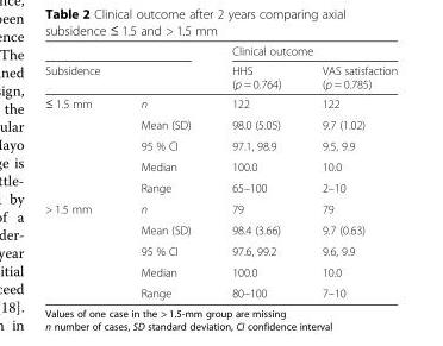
<table><thead><tr><td rowspan="2">Subsidence</td><td rowspan="2"></td><td colspan="2">Clinical outcome</td></tr><tr><td>HHS (p = 0.764)</td><td>VAS satisfaction (p = 0.785)</td></tr></thead><tbody><tr><td rowspan="5">≤ 1.5 mm</td><td>n</td><td>122</td><td>122</td></tr><tr><td>Mean (SD)</td><td>98.0 (5.05)</td><td>9.7 (1.02)</td></tr><tr><td>95 % CI</td><td>97.1, 98.9</td><td>9.5, 9.9</td></tr><tr><td>Median</td><td>100.0</td><td>10.0</td></tr><tr><td>Range</td><td>65–100</td><td>2–10</td></tr><tr><td rowspan="5">&gt; 1.5 mm</td><td>n</td><td>79</td><td>79</td></tr><tr><td>Mean (SD)</td><td>98.4 (3.66)</td><td>9.7 (0.63)</td></tr><tr><td>95 % CI</td><td>97.6, 99.2</td><td>9.6, 9.9</td></tr><tr><td>Median</td><td>100.0</td><td>10.0</td></tr><tr><td>Range</td><td>80–100</td><td>7–10</td></tr></tbody></table>